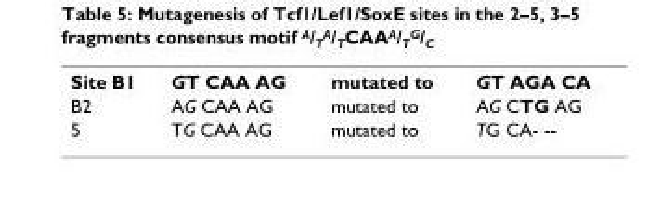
<table><tbody><tr><td>Site B1</td><td>GT CAA AG</td><td>mutated to</td><td>GT AGA CA</td></tr><tr><td>B2</td><td>AG CAA AG</td><td>mutated to</td><td>AG CTG AG</td></tr><tr><td>5</td><td>TG CAA AG</td><td>mutated to</td><td>TG CA- --</td></tr></tbody></table>